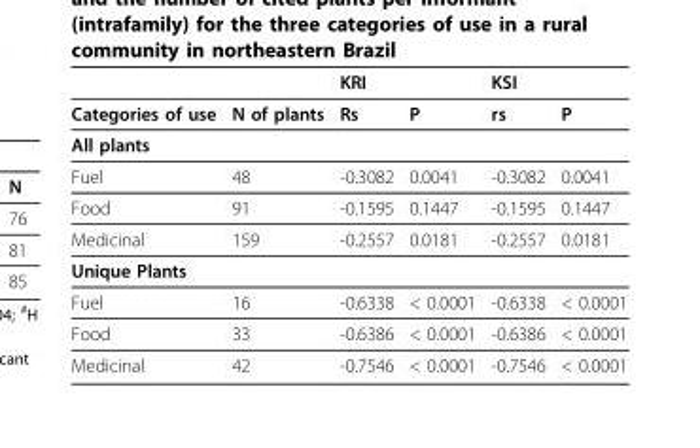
<table><thead><tr><td rowspan="2">Categories of use</td><td rowspan="2">N of plants</td><td colspan="2">KRI</td><td colspan="2">KSI</td></tr><tr><td>Rs</td><td>P</td><td>rs</td><td>P</td></tr></thead><tbody><tr><td colspan="6">All plants</td></tr><tr><td>Fuel</td><td>48</td><td>-0.3082</td><td>0.0041</td><td>-0.3082</td><td>0.0041</td></tr><tr><td>Food</td><td>91</td><td>-0.1595</td><td>0.1447</td><td>-0.1595</td><td>0.1447</td></tr><tr><td>Medicinal</td><td>159</td><td>-0.2557</td><td>0.0181</td><td>-0.2557</td><td>0.0181</td></tr><tr><td colspan="6">Unique Plants</td></tr><tr><td>Fuel</td><td>16</td><td>-0.6338</td><td>&lt; 0.0001</td><td>-0.6338</td><td>&lt; 0.0001</td></tr><tr><td>Food</td><td>33</td><td>-0.6386</td><td>&lt; 0.0001</td><td>-0.6386</td><td>&lt; 0.0001</td></tr><tr><td>Medicinal</td><td>42</td><td>-0.7546</td><td>&lt; 0.0001</td><td>-0.7546</td><td>&lt; 0.0001</td></tr></tbody></table>